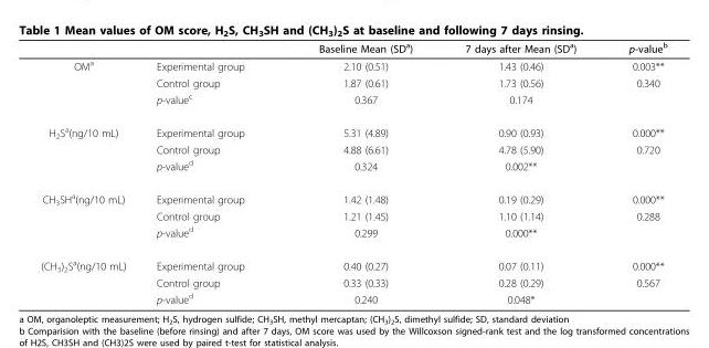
<table><thead><tr><td></td><td></td><td>Baseline Mean (SD<sup>a</sup>)</td><td>7 days after Mean (SD<sup>a</sup>)</td><td>p-value<sup>b</sup></td></tr></thead><tbody><tr><td rowspan="3">OM<sup>a</sup></td><td>Experimental group</td><td>2.10 (0.51)</td><td>1.43 (0.46)</td><td>0.003**</td></tr><tr><td>Control group</td><td>1.87 (0.61)</td><td>1.73 (0.56)</td><td>0.340</td></tr><tr><td>p-value<sup>c</sup></td><td>0.367</td><td>0.174</td><td></td></tr><tr><td rowspan="3">H<sub>2</sub>S<sup>a</sup>(ng/10 mL)</td><td>Experimental group</td><td>5.31 (4.89)</td><td>0.90 (0.93)</td><td>0.000**</td></tr><tr><td>Control group</td><td>4.88 (6.61)</td><td>4.78 (5.90)</td><td>0.720</td></tr><tr><td>p-value<sup>d</sup></td><td>0.324</td><td>0.002**</td><td></td></tr><tr><td rowspan="3">CH<sub>3</sub>SH<sup>a</sup>(ng/10 mL)</td><td>Experimental group</td><td>1.42 (1.48)</td><td>0.19 (0.29)</td><td>0.000**</td></tr><tr><td>Control group</td><td>1.21 (1.45)</td><td>1.10 (1.14)</td><td>0.288</td></tr><tr><td>p-value<sup>d</sup></td><td>0.299</td><td>0.000**</td><td></td></tr><tr><td rowspan="3">(CH<sub>3</sub>)<sub>2</sub>S<sup>a</sup>(ng/10 mL)</td><td>Experimental group</td><td>0.40 (0.27)</td><td>0.07 (0.11)</td><td>0.000**</td></tr><tr><td>Control group</td><td>0.33 (0.33)</td><td>0.28 (0.29)</td><td>0.567</td></tr><tr><td>p-value<sup>d</sup></td><td>0.240</td><td>0.048*</td><td></td></tr></tbody></table>